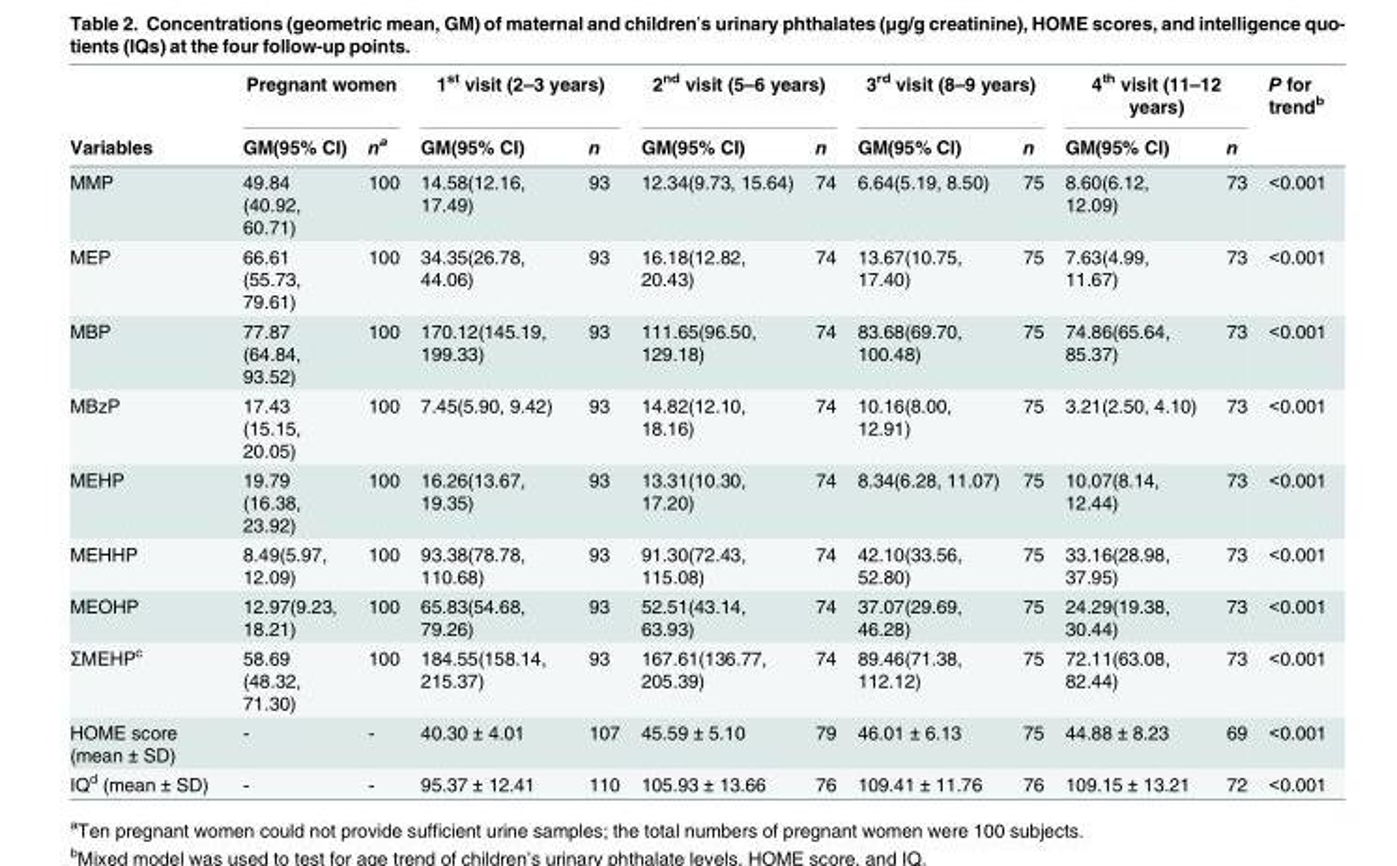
<table><thead><tr><td rowspan="2">Variables</td><td colspan="2">Pregnant women</td><td colspan="2">1<sup>st</sup> visit (2–3 years)</td><td colspan="2">2<sup>nd</sup> visit (5–6 years)</td><td colspan="2">3<sup>rd</sup> visit (8–9 years)</td><td colspan="2">4<sup>th</sup> visit (11–12 years)</td><td rowspan="2">P for trend<sup>b</sup></td></tr><tr><td>GM(95% CI)</td><td>n<sup>a</sup></td><td>GM(95% CI)</td><td>n</td><td>GM(95% CI)</td><td>n</td><td>GM(95% CI)</td><td>n</td><td>GM(95% CI)</td><td>n</td></tr></thead><tbody><tr><td>MMP</td><td>49.84 (40.92, 60.71)</td><td>100</td><td>14.58(12.16, 17.49)</td><td>93</td><td>12.34(9.73, 15.64)</td><td>74</td><td>6.64(5.19, 8.50)</td><td>75</td><td>8.60(6.12, 12.09)</td><td>73</td><td>&lt;0.001</td></tr><tr><td>MEP</td><td>66.61 (55.73, 79.61)</td><td>100</td><td>34.35(26.78, 44.06)</td><td>93</td><td>16.18(12.82, 20.43)</td><td>74</td><td>13.67(10.75, 17.40)</td><td>75</td><td>7.63(4.99, 11.67)</td><td>73</td><td>&lt;0.001</td></tr><tr><td>MBP</td><td>77.87 (64.84, 93.52)</td><td>100</td><td>170.12(145.19, 199.33)</td><td>93</td><td>111.65(96.50, 129.18)</td><td>74</td><td>83.68(69.70, 100.48)</td><td>75</td><td>74.86(65.64, 85.37)</td><td>73</td><td>&lt;0.001</td></tr><tr><td>MBzP</td><td>17.43 (15.15, 20.05)</td><td>100</td><td>7.45(5.90, 9.42)</td><td>93</td><td>14.82(12.10, 18.16)</td><td>74</td><td>10.16(8.00, 12.91)</td><td>75</td><td>3.21(2.50, 4.10)</td><td>73</td><td>&lt;0.001</td></tr><tr><td>MEHP</td><td>19.79 (16.38, 23.92)</td><td>100</td><td>16.26(13.67, 19.35)</td><td>93</td><td>13.31(10.30, 17.20)</td><td>74</td><td>8.34(6.28, 11.07)</td><td>75</td><td>10.07(8.14, 12.44)</td><td>73</td><td>&lt;0.001</td></tr><tr><td>MEHHP</td><td>8.49(5.97, 12.09)</td><td>100</td><td>93.38(78.78, 110.68)</td><td>93</td><td>91.30(72.43, 115.08)</td><td>74</td><td>42.10(33.56, 52.80)</td><td>75</td><td>33.16(28.98, 37.95)</td><td>73</td><td>&lt;0.001</td></tr><tr><td>MEOHP</td><td>12.97(9.23, 18.21)</td><td>100</td><td>65.83(54.68, 79.26)</td><td>93</td><td>52.51(43.14, 63.93)</td><td>74</td><td>37.07(29.69, 46.28)</td><td>75</td><td>24.29(19.38, 30.44)</td><td>73</td><td>&lt;0.001</td></tr><tr><td>ΣMEHP<sup>c</sup></td><td>58.69 (48.32, 71.30)</td><td>100</td><td>184.55(158.14, 215.37)</td><td>93</td><td>167.61(136.77, 205.39)</td><td>74</td><td>89.46(71.38, 112.12)</td><td>75</td><td>72.11(63.08, 82.44)</td><td>73</td><td>&lt;0.001</td></tr><tr><td>HOME score (mean ± SD)</td><td>-</td><td>-</td><td>40.30 ± 4.01</td><td>107</td><td>45.59 ± 5.10</td><td>79</td><td>46.01 ± 6.13</td><td>75</td><td>44.88 ± 8.23</td><td>69</td><td>&lt;0.001</td></tr><tr><td>IQ<sup>d</sup> (mean ± SD)</td><td>-</td><td>-</td><td>95.37 ± 12.41</td><td>110</td><td>105.93 ± 13.66</td><td>76</td><td>109.41 ± 11.76</td><td>76</td><td>109.15 ± 13.21</td><td>72</td><td>&lt;0.001</td></tr></tbody></table>